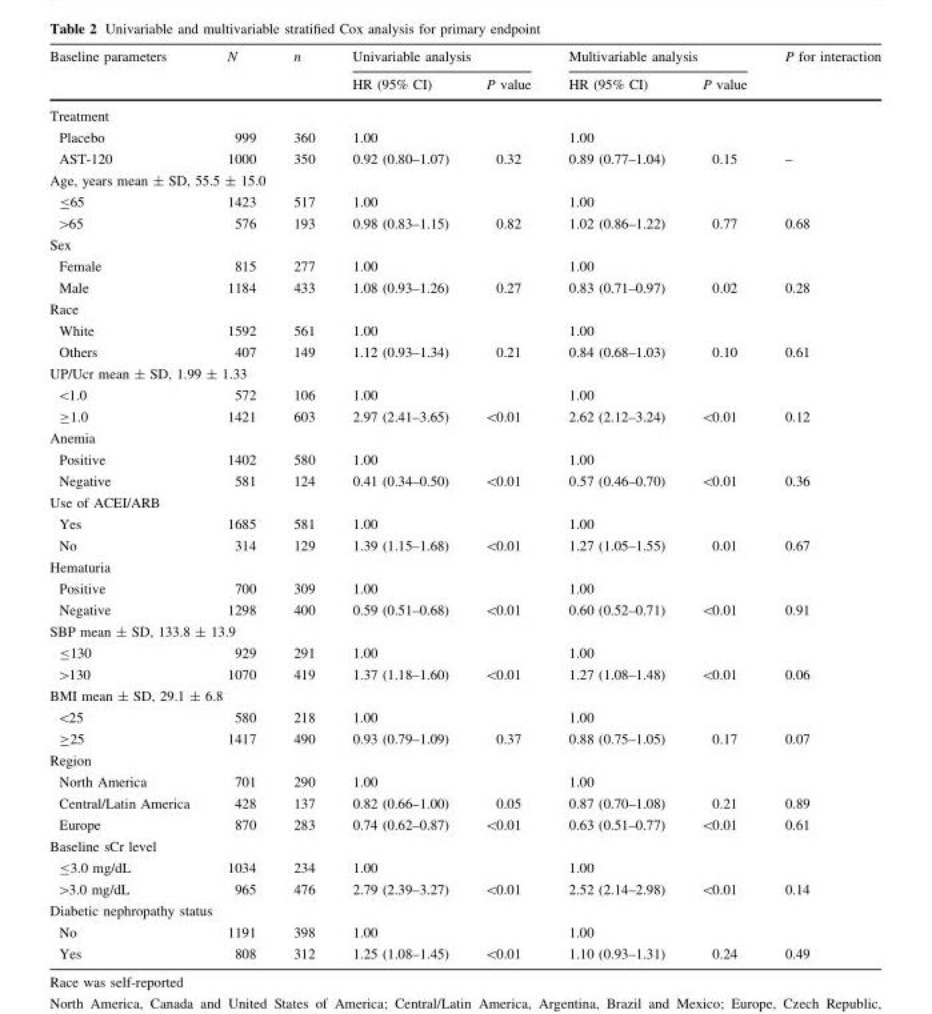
<table><thead><tr><td rowspan="2">Baseline parameters</td><td rowspan="2">N</td><td rowspan="2">n</td><td colspan="2">Univariable analysis</td><td colspan="2">Multivariable analysis</td><td rowspan="2">P for interaction</td></tr><tr><td>HR (95% CI)</td><td>P value</td><td>HR (95% CI)</td><td>P value</td></tr></thead><tbody><tr><td colspan="8">Treatment</td></tr><tr><td>Placebo</td><td>999</td><td>360</td><td>1.00</td><td></td><td>1.00</td><td></td><td></td></tr><tr><td>AST-120</td><td>1000</td><td>350</td><td>0.92 (0.80–1.07)</td><td>0.32</td><td>0.89 (0.77–1.04)</td><td>0.15</td><td>–</td></tr><tr><td colspan="8">Age, years mean ± SD, 55.5 ± 15.0</td></tr><tr><td>≤65</td><td>1423</td><td>517</td><td>1.00</td><td></td><td>1.00</td><td></td><td></td></tr><tr><td>&gt;65</td><td>576</td><td>193</td><td>0.98 (0.83–1.15)</td><td>0.82</td><td>1.02 (0.86–1.22)</td><td>0.77</td><td>0.68</td></tr><tr><td colspan="8">Sex</td></tr><tr><td>Female</td><td>815</td><td>277</td><td>1.00</td><td></td><td>1.00</td><td></td><td></td></tr><tr><td>Male</td><td>1184</td><td>433</td><td>1.08 (0.93–1.26)</td><td>0.27</td><td>0.83 (0.71–0.97)</td><td>0.02</td><td>0.28</td></tr><tr><td colspan="8">Race</td></tr><tr><td>White</td><td>1592</td><td>561</td><td>1.00</td><td></td><td>1.00</td><td></td><td></td></tr><tr><td>Others</td><td>407</td><td>149</td><td>1.12 (0.93–1.34)</td><td>0.21</td><td>0.84 (0.68–1.03)</td><td>0.10</td><td>0.61</td></tr><tr><td colspan="8">UP/Ucr mean ± SD, 1.99 ± 1.33</td></tr><tr><td>&lt;1.0</td><td>572</td><td>106</td><td>1.00</td><td></td><td>1.00</td><td></td><td></td></tr><tr><td>≥1.0</td><td>1421</td><td>603</td><td>2.97 (2.41–3.65)</td><td>&lt;0.01</td><td>2.62 (2.12–3.24)</td><td>&lt;0.01</td><td>0.12</td></tr><tr><td colspan="8">Anemia</td></tr><tr><td>Positive</td><td>1402</td><td>580</td><td>1.00</td><td></td><td>1.00</td><td></td><td></td></tr><tr><td>Negative</td><td>581</td><td>124</td><td>0.41 (0.34–0.50)</td><td>&lt;0.01</td><td>0.57 (0.46–0.70)</td><td>&lt;0.01</td><td>0.36</td></tr><tr><td colspan="8">Use of ACEI/ARB</td></tr><tr><td>Yes</td><td>1685</td><td>581</td><td>1.00</td><td></td><td>1.00</td><td></td><td></td></tr><tr><td>No</td><td>314</td><td>129</td><td>1.39 (1.15–1.68)</td><td>&lt;0.01</td><td>1.27 (1.05–1.55)</td><td>0.01</td><td>0.67</td></tr><tr><td colspan="8">Hematuria</td></tr><tr><td>Positive</td><td>700</td><td>309</td><td>1.00</td><td></td><td>1.00</td><td></td><td></td></tr><tr><td>Negative</td><td>1298</td><td>400</td><td>0.59 (0.51–0.68)</td><td>&lt;0.01</td><td>0.60 (0.52–0.71)</td><td>&lt;0.01</td><td>0.91</td></tr><tr><td colspan="8">SBP mean ± SD, 133.8 ± 13.9</td></tr><tr><td>≤130</td><td>929</td><td>291</td><td>1.00</td><td></td><td>1.00</td><td></td><td></td></tr><tr><td>&gt;130</td><td>1070</td><td>419</td><td>1.37 (1.18–1.60)</td><td>&lt;0.01</td><td>1.27 (1.08–1.48)</td><td>&lt;0.01</td><td>0.06</td></tr><tr><td colspan="8">BMI mean ± SD, 29.1 ± 6.8</td></tr><tr><td>&lt;25</td><td>580</td><td>218</td><td>1.00</td><td></td><td>1.00</td><td></td><td></td></tr><tr><td>≥25</td><td>1417</td><td>490</td><td>0.93 (0.79–1.09)</td><td>0.37</td><td>0.88 (0.75–1.05)</td><td>0.17</td><td>0.07</td></tr><tr><td colspan="8">Region</td></tr><tr><td>North America</td><td>701</td><td>290</td><td>1.00</td><td></td><td>1.00</td><td></td><td></td></tr><tr><td>Central/Latin America</td><td>428</td><td>137</td><td>0.82 (0.66–1.00)</td><td>0.05</td><td>0.87 (0.70–1.08)</td><td>0.21</td><td>0.89</td></tr><tr><td>Europe</td><td>870</td><td>283</td><td>0.74 (0.62–0.87)</td><td>&lt;0.01</td><td>0.63 (0.51–0.77)</td><td>&lt;0.01</td><td>0.61</td></tr><tr><td colspan="8">Baseline sCr level</td></tr><tr><td>≤3.0 mg/dL</td><td>1034</td><td>234</td><td>1.00</td><td></td><td>1.00</td><td></td><td></td></tr><tr><td>&gt;3.0 mg/dL</td><td>965</td><td>476</td><td>2.79 (2.39–3.27)</td><td>&lt;0.01</td><td>2.52 (2.14–2.98)</td><td>&lt;0.01</td><td>0.14</td></tr><tr><td colspan="8">Diabetic nephropathy status</td></tr><tr><td>No</td><td>1191</td><td>398</td><td>1.00</td><td></td><td>1.00</td><td></td><td></td></tr><tr><td>Yes</td><td>808</td><td>312</td><td>1.25 (1.08–1.45)</td><td>&lt;0.01</td><td>1.10 (0.93–1.31)</td><td>0.24</td><td>0.49</td></tr></tbody></table>